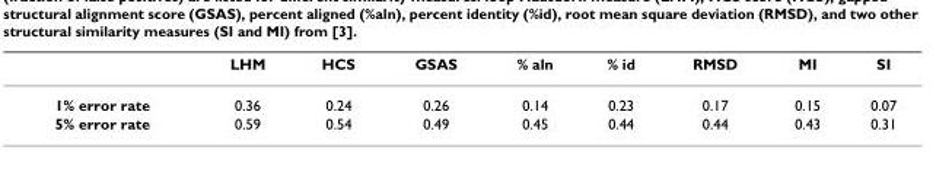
<table><thead><tr><td></td><td>LHM</td><td>HCS</td><td>GSAS</td><td>% aln</td><td>% id</td><td>RMSD</td><td>MI</td><td>SI</td></tr></thead><tbody><tr><td>1% error rate</td><td>0.36</td><td>0.24</td><td>0.26</td><td>0.14</td><td>0.23</td><td>0.17</td><td>0.15</td><td>0.07</td></tr><tr><td>5% error rate</td><td>0.59</td><td>0.54</td><td>0.49</td><td>0.45</td><td>0.44</td><td>0.44</td><td>0.43</td><td>0.31</td></tr></tbody></table>